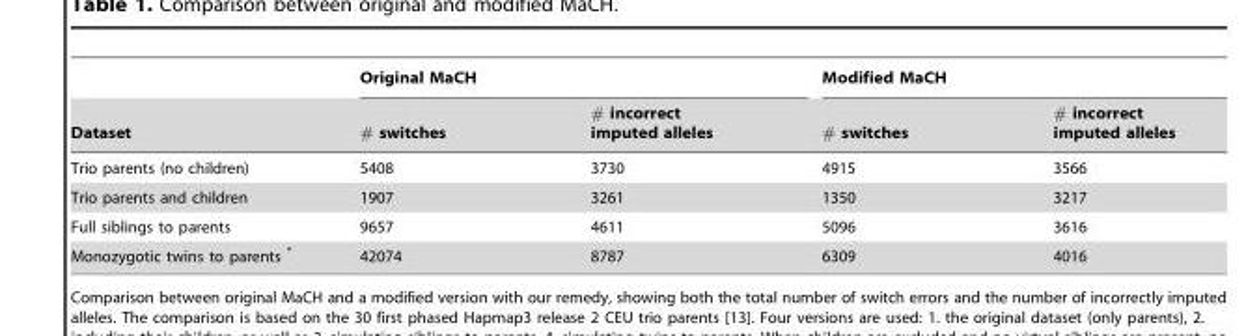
<table><thead><tr><td rowspan="2">Dataset</td><td colspan="2">Original MaCH</td><td colspan="2">Modified MaCH</td></tr><tr><td># switches</td><td># incorrect imputed alleles</td><td># switches</td><td># incorrect imputed alleles</td></tr></thead><tbody><tr><td>Trio parents (no children)</td><td>5408</td><td>3730</td><td>4915</td><td>3566</td></tr><tr><td>Trio parents and children</td><td>1907</td><td>3261</td><td>1350</td><td>3217</td></tr><tr><td>Full siblings to parents</td><td>9657</td><td>4611</td><td>5096</td><td>3616</td></tr><tr><td>Monozygotic twins to parents *</td><td>42074</td><td>8787</td><td>6309</td><td>4016</td></tr></tbody></table>